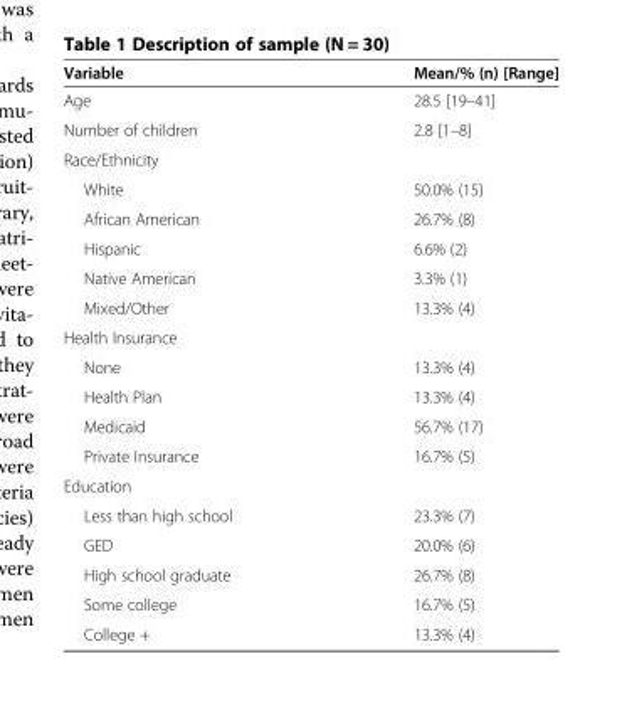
<table><thead><tr><td>Variable</td><td>Mean/% (n) [Range]</td></tr></thead><tbody><tr><td>Age</td><td>28.5 [19–41]</td></tr><tr><td>Number of children</td><td>2.8 [1–8]</td></tr><tr><td colspan="2">Race/Ethnicity</td></tr><tr><td>White</td><td>50.0% (15)</td></tr><tr><td>African American</td><td>26.7% (8)</td></tr><tr><td>Hispanic</td><td>6.6% (2)</td></tr><tr><td>Native American</td><td>3.3% (1)</td></tr><tr><td>Mixed/Other</td><td>13.3% (4)</td></tr><tr><td colspan="2">Health Insurance</td></tr><tr><td>None</td><td>13.3% (4)</td></tr><tr><td>Health Plan</td><td>13.3% (4)</td></tr><tr><td>Medicaid</td><td>56.7% (17)</td></tr><tr><td>Private Insurance</td><td>16.7% (5)</td></tr><tr><td colspan="2">Education</td></tr><tr><td>Less than high school</td><td>23.3% (7)</td></tr><tr><td>GED</td><td>20.0% (6)</td></tr><tr><td>High school graduate</td><td>26.7% (8)</td></tr><tr><td>Some college</td><td>16.7% (5)</td></tr><tr><td>College +</td><td>13.3% (4)</td></tr></tbody></table>